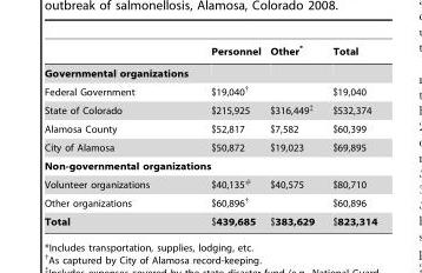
<table><thead><tr><td></td><td>Personnel</td><td>Other*</td><td>Total</td></tr></thead><tbody><tr><td colspan="4">Governmental organizations</td></tr><tr><td>Federal Government</td><td>$19,040†</td><td></td><td>$19,040</td></tr><tr><td>State of Colorado</td><td>$215,925</td><td>$316,449‡</td><td>$532,374</td></tr><tr><td>Alamosa County</td><td>$52,817</td><td>$7,582</td><td>$60,399</td></tr><tr><td>City of Alamosa</td><td>$50,872</td><td>$19,023</td><td>$69,895</td></tr><tr><td colspan="4">Non-governmental organizations</td></tr><tr><td>Volunteer organizations</td><td>$40,135#</td><td>$40,575</td><td>$80,710</td></tr><tr><td>Other organizations</td><td>$60,896†</td><td></td><td>$60,896</td></tr><tr><td>Total</td><td>$439,685</td><td>$383,629</td><td>$823,314</td></tr></tbody></table>